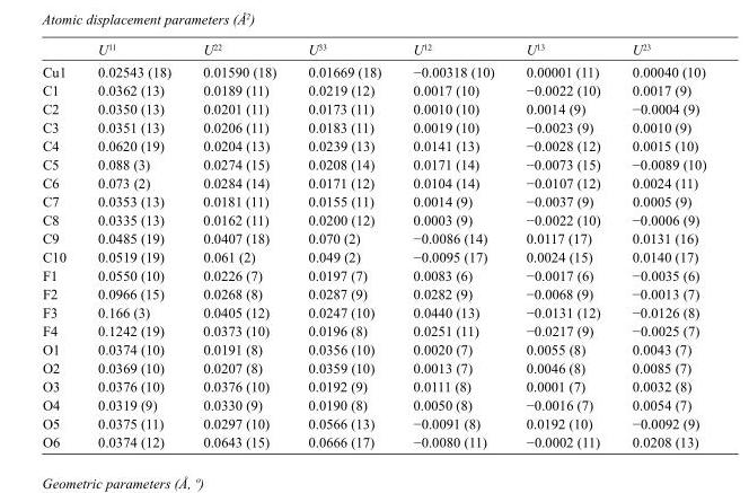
<table><thead><tr><td></td><td>U<sup>11</sup></td><td>U<sup>22</sup></td><td>U<sup>33</sup></td><td>U<sup>12</sup></td><td>U<sup>13</sup></td><td>U<sup>23</sup></td></tr></thead><tbody><tr><td>Cu1</td><td>0.02543 (18)</td><td>0.01590 (18)</td><td>0.01669 (18)</td><td>−0.00318 (10)</td><td>0.00001 (11)</td><td>0.00040 (10)</td></tr><tr><td>C1</td><td>0.0362 (13)</td><td>0.0189 (11)</td><td>0.0219 (12)</td><td>0.0017 (10)</td><td>−0.0022 (10)</td><td>0.0017 (9)</td></tr><tr><td>C2</td><td>0.0350 (13)</td><td>0.0201 (11)</td><td>0.0173 (11)</td><td>0.0010 (10)</td><td>0.0014 (9)</td><td>−0.0004 (9)</td></tr><tr><td>C3</td><td>0.0351 (13)</td><td>0.0206 (11)</td><td>0.0183 (11)</td><td>0.0019 (10)</td><td>−0.0023 (9)</td><td>0.0010 (9)</td></tr><tr><td>C4</td><td>0.0620 (19)</td><td>0.0204 (13)</td><td>0.0239 (13)</td><td>0.0141 (13)</td><td>−0.0028 (12)</td><td>0.0015 (10)</td></tr><tr><td>C5</td><td>0.088 (3)</td><td>0.0274 (15)</td><td>0.0208 (14)</td><td>0.0171 (14)</td><td>−0.0073 (15)</td><td>−0.0089 (10)</td></tr><tr><td>C6</td><td>0.073 (2)</td><td>0.0284 (14)</td><td>0.0171 (12)</td><td>0.0104 (14)</td><td>−0.0107 (12)</td><td>0.0024 (11)</td></tr><tr><td>C7</td><td>0.0353 (13)</td><td>0.0181 (11)</td><td>0.0155 (11)</td><td>0.0014 (9)</td><td>−0.0037 (9)</td><td>0.0005 (9)</td></tr><tr><td>C8</td><td>0.0335 (13)</td><td>0.0162 (11)</td><td>0.0200 (12)</td><td>0.0003 (9)</td><td>−0.0022 (10)</td><td>−0.0006 (9)</td></tr><tr><td>C9</td><td>0.0485 (19)</td><td>0.0407 (18)</td><td>0.070 (2)</td><td>−0.0086 (14)</td><td>0.0117 (17)</td><td>0.0131 (16)</td></tr><tr><td>C10</td><td>0.0519 (19)</td><td>0.061 (2)</td><td>0.049 (2)</td><td>−0.0095 (17)</td><td>0.0024 (15)</td><td>0.0140 (17)</td></tr><tr><td>F1</td><td>0.0550 (10)</td><td>0.0226 (7)</td><td>0.0197 (7)</td><td>0.0083 (6)</td><td>−0.0017 (6)</td><td>−0.0035 (6)</td></tr><tr><td>F2</td><td>0.0966 (15)</td><td>0.0268 (8)</td><td>0.0287 (9)</td><td>0.0282 (9)</td><td>−0.0068 (9)</td><td>−0.0013 (7)</td></tr><tr><td>F3</td><td>0.166 (3)</td><td>0.0405 (12)</td><td>0.0247 (10)</td><td>0.0440 (13)</td><td>−0.0131 (12)</td><td>−0.0126 (8)</td></tr><tr><td>F4</td><td>0.1242 (19)</td><td>0.0373 (10)</td><td>0.0196 (8)</td><td>0.0251 (11)</td><td>−0.0217 (9)</td><td>−0.0025 (7)</td></tr><tr><td>O1</td><td>0.0374 (10)</td><td>0.0191 (8)</td><td>0.0356 (10)</td><td>0.0020 (7)</td><td>0.0055 (8)</td><td>0.0043 (7)</td></tr><tr><td>O2</td><td>0.0369 (10)</td><td>0.0207 (8)</td><td>0.0359 (10)</td><td>0.0013 (7)</td><td>0.0046 (8)</td><td>0.0085 (7)</td></tr><tr><td>O3</td><td>0.0376 (10)</td><td>0.0376 (10)</td><td>0.0192 (9)</td><td>0.0111 (8)</td><td>0.0001 (7)</td><td>0.0032 (8)</td></tr><tr><td>O4</td><td>0.0319 (9)</td><td>0.0330 (9)</td><td>0.0190 (8)</td><td>0.0050 (8)</td><td>−0.0016 (7)</td><td>0.0054 (7)</td></tr><tr><td>O5</td><td>0.0375 (11)</td><td>0.0297 (10)</td><td>0.0566 (13)</td><td>−0.0091 (8)</td><td>0.0192 (10)</td><td>−0.0092 (9)</td></tr><tr><td>O6</td><td>0.0374 (12)</td><td>0.0643 (15)</td><td>0.0666 (17)</td><td>−0.0080 (11)</td><td>−0.0002 (11)</td><td>0.0208 (13)</td></tr></tbody></table>